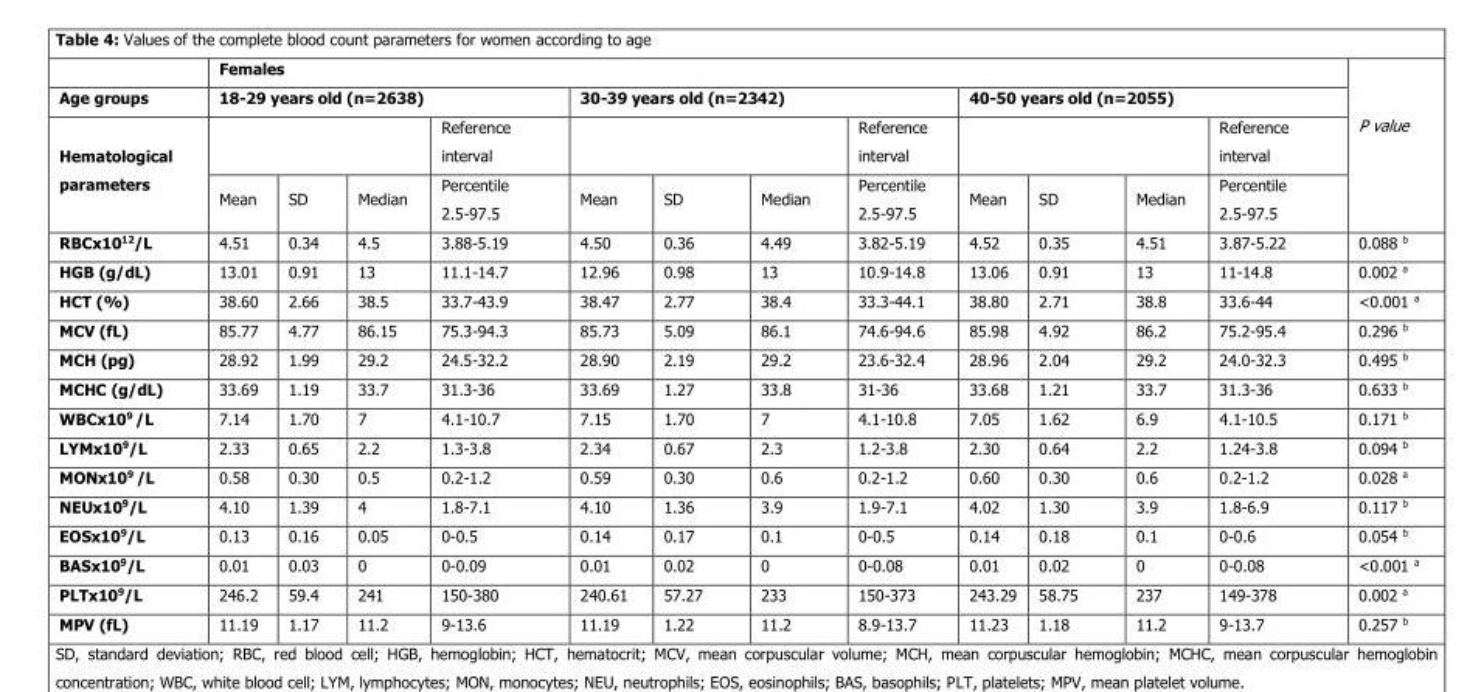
<table><thead><tr><td rowspan="4">Age groups Hematological parameters</td><td colspan="12">Females</td><td rowspan="4">P value</td></tr><tr><td colspan="4">18-29 years old (n=2638)</td><td colspan="4">30-39 years old (n=2342)</td><td colspan="4">40-50 years old (n=2055)</td></tr><tr><td rowspan="2">Mean</td><td rowspan="2">SD</td><td rowspan="2">Median</td><td rowspan="2">Reference interval Percentile 2.5-97.5</td><td rowspan="2">Mean</td><td rowspan="2">SD</td><td rowspan="2">Median</td><td rowspan="2">Reference interval Percentile 2.5-97.5</td><td rowspan="2">Mean</td><td rowspan="2">SD</td><td rowspan="2">Median</td><td rowspan="2">Reference interval Percentile 2.5-97.5</td></tr><tr></tr></thead><tbody><tr><td>RBCx10<sup>12</sup>/L</td><td>4.51</td><td>0.34</td><td>4.5</td><td>3.88-5.19</td><td>4.50</td><td>0.36</td><td>4.49</td><td>3.82-5.19</td><td>4.52</td><td>0.35</td><td>4.51</td><td>3.87-5.22</td><td>0.088 <sup>b</sup></td></tr><tr><td>HGB (g/dL)</td><td>13.01</td><td>0.91</td><td>13</td><td>11.1-14.7</td><td>12.96</td><td>0.98</td><td>13</td><td>10.9-14.8</td><td>13.06</td><td>0.91</td><td>13</td><td>11-14.8</td><td>0.002 <sup>a</sup></td></tr><tr><td>HCT (%)</td><td>38.60</td><td>2.66</td><td>38.5</td><td>33.7-43.9</td><td>38.47</td><td>2.77</td><td>38.4</td><td>33.3-44.1</td><td>38.80</td><td>2.71</td><td>38.8</td><td>33.6-44</td><td>&lt;0.001 <sup>a</sup></td></tr><tr><td>MCV (fL)</td><td>85.77</td><td>4.77</td><td>86.15</td><td>75.3-94.3</td><td>85.73</td><td>5.09</td><td>86.1</td><td>74.6-94.6</td><td>85.98</td><td>4.92</td><td>86.2</td><td>75.2-95.4</td><td>0.296 <sup>b</sup></td></tr><tr><td>MCH (pg)</td><td>28.92</td><td>1.99</td><td>29.2</td><td>24.5-32.2</td><td>28.90</td><td>2.19</td><td>29.2</td><td>23.6-32.4</td><td>28.96</td><td>2.04</td><td>29.2</td><td>24.0-32.3</td><td>0.495 <sup>b</sup></td></tr><tr><td>MCHC (g/dL)</td><td>33.69</td><td>1.19</td><td>33.7</td><td>31.3-36</td><td>33.69</td><td>1.27</td><td>33.8</td><td>31-36</td><td>33.68</td><td>1.21</td><td>33.7</td><td>31.3-36</td><td>0.633 <sup>b</sup></td></tr><tr><td>WBCx10<sup>9</sup> /L</td><td>7.14</td><td>1.70</td><td>7</td><td>4.1-10.7</td><td>7.15</td><td>1.70</td><td>7</td><td>4.1-10.8</td><td>7.05</td><td>1.62</td><td>6.9</td><td>4.1-10.5</td><td>0.171 <sup>b</sup></td></tr><tr><td>LYMx10<sup>9</sup>/L</td><td>2.33</td><td>0.65</td><td>2.2</td><td>1.3-3.8</td><td>2.34</td><td>0.67</td><td>2.3</td><td>1.2-3.8</td><td>2.30</td><td>0.64</td><td>2.2</td><td>1.24-3.8</td><td>0.094 <sup>b</sup></td></tr><tr><td>MONx10<sup>9</sup> /L</td><td>0.58</td><td>0.30</td><td>0.5</td><td>0.2-1.2</td><td>0.59</td><td>0.30</td><td>0.6</td><td>0.2-1.2</td><td>0.60</td><td>0.30</td><td>0.6</td><td>0.2-1.2</td><td>0.028 <sup>a</sup></td></tr><tr><td>NEUx10<sup>9</sup>/L</td><td>4.10</td><td>1.39</td><td>4</td><td>1.8-7.1</td><td>4.10</td><td>1.36</td><td>3.9</td><td>1.9-7.1</td><td>4.02</td><td>1.30</td><td>3.9</td><td>1.8-6.9</td><td>0.117 <sup>b</sup></td></tr><tr><td>EOSx10<sup>9</sup>/L</td><td>0.13</td><td>0.16</td><td>0.05</td><td>0-0.5</td><td>0.14</td><td>0.17</td><td>0.1</td><td>0-0.5</td><td>0.14</td><td>0.18</td><td>0.1</td><td>0-0.6</td><td>0.054 <sup>b</sup></td></tr><tr><td>BASx10<sup>9</sup>/L</td><td>0.01</td><td>0.03</td><td>0</td><td>0-0.09</td><td>0.01</td><td>0.02</td><td>0</td><td>0-0.08</td><td>0.01</td><td>0.02</td><td>0</td><td>0-0.08</td><td>&lt;0.001 <sup>a</sup></td></tr><tr><td>PLTx10<sup>9</sup>/L</td><td>246.2</td><td>59.4</td><td>241</td><td>150-380</td><td>240.61</td><td>57.27</td><td>233</td><td>150-373</td><td>243.29</td><td>58.75</td><td>237</td><td>149-378</td><td>0.002 <sup>a</sup></td></tr><tr><td>MPV (fL)</td><td>11.19</td><td>1.17</td><td>11.2</td><td>9-13.6</td><td>11.19</td><td>1.22</td><td>11.2</td><td>8.9-13.7</td><td>11.23</td><td>1.18</td><td>11.2</td><td>9-13.7</td><td>0.257 <sup>b</sup></td></tr></tbody></table>